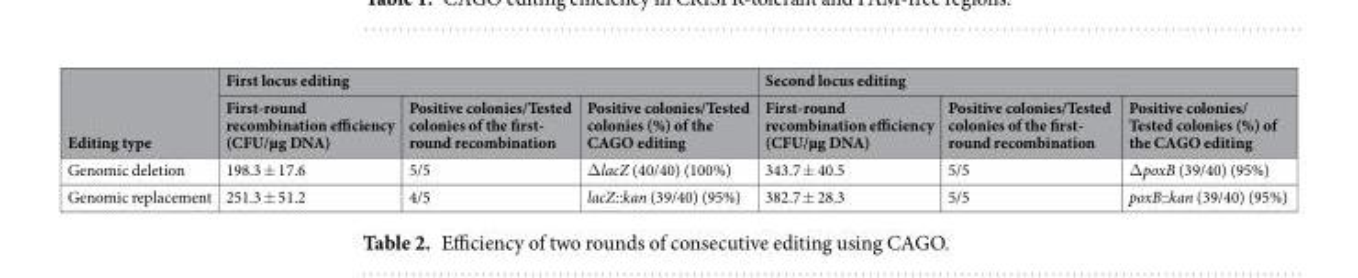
<table><thead><tr><td rowspan="2">Editing type</td><td colspan="3">First locus editing</td><td colspan="3">Second locus editing</td></tr><tr><td>First-round recombination efficiency (CFU/µg DNA)</td><td>Positive colonies/Tested colonies of the first- round recombination</td><td>Positive colonies/Tested colonies (%) of the CAGO editing</td><td>First-round recombination efficiency (CFU/µg DNA)</td><td>Positive colonies/Tested colonies of the first- round recombination</td><td>Positive colonies/ Tested colonies (%) of the CAGO editing</td></tr></thead><tbody><tr><td>Genomic deletion</td><td>198.3 ± 17.6</td><td>5/5</td><td>ΔlacZ (40/40) (100%)</td><td>343.7 ± 40.5</td><td>5/5</td><td>ΔpoxB (39/40) (95%)</td></tr><tr><td>Genomic replacement</td><td>251.3 ± 51.2</td><td>4/5</td><td>lacZ::kan (39/40) (95%)</td><td>382.7 ± 28.3</td><td>5/5</td><td>poxB::kan (39/40) (95%)</td></tr></tbody></table>